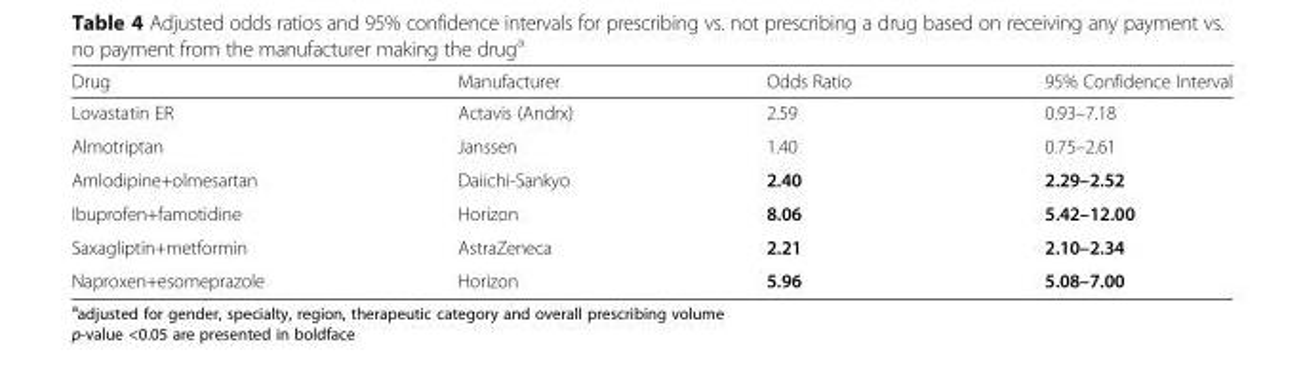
<table><thead><tr><td>Drug</td><td>Manufacturer</td><td>Odds Ratio</td><td>95% Confidence Interval</td></tr></thead><tbody><tr><td>Lovastatin ER</td><td>Actavis (Andrx)</td><td>2.59</td><td>0.93–7.18</td></tr><tr><td>Almotriptan</td><td>Janssen</td><td>1.40</td><td>0.75–2.61</td></tr><tr><td>Amlodipine+olmesartan</td><td>Daiichi-Sankyo</td><td>2.40</td><td>2.29–2.52</td></tr><tr><td>Ibuprofen+famotidine</td><td>Horizon</td><td>8.06</td><td>5.42–12.00</td></tr><tr><td>Saxagliptin+metformin</td><td>AstraZeneca</td><td>2.21</td><td>2.10–2.34</td></tr><tr><td>Naproxen+esomeprazole</td><td>Horizon</td><td>5.96</td><td>5.08–7.00</td></tr></tbody></table>